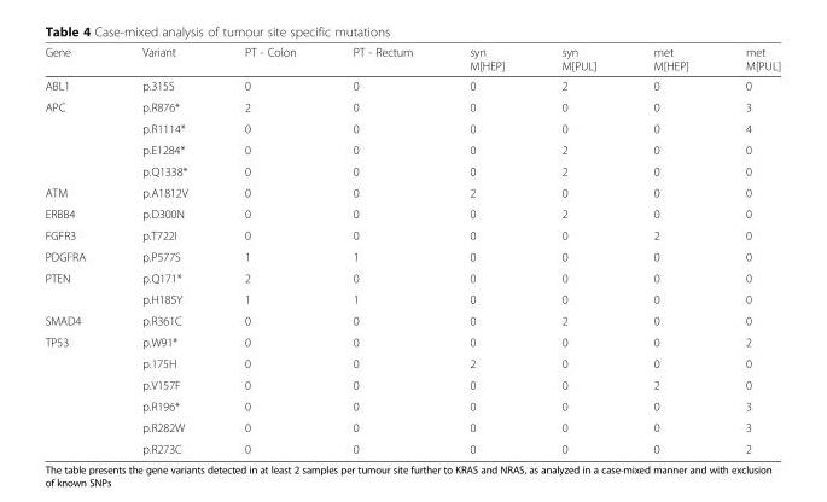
<table><thead><tr><td>Gene</td><td>Variant</td><td>PT - Colon</td><td>PT - Rectum</td><td>syn M[HEP]</td><td>syn M[PUL]</td><td>met M[HEP]</td><td>met M[PUL]</td></tr></thead><tbody><tr><td>ABL1</td><td>p.315S</td><td>0</td><td>0</td><td>0</td><td>2</td><td>0</td><td>0</td></tr><tr><td rowspan="4">APC</td><td>p.R876*</td><td>2</td><td>0</td><td>0</td><td>0</td><td>0</td><td>3</td></tr><tr><td>p.R1114*</td><td>0</td><td>0</td><td>0</td><td>0</td><td>0</td><td>4</td></tr><tr><td>p.E1284*</td><td>0</td><td>0</td><td>0</td><td>2</td><td>0</td><td>0</td></tr><tr><td>p.Q1338*</td><td>0</td><td>0</td><td>0</td><td>2</td><td>0</td><td>0</td></tr><tr><td>ATM</td><td>p.A1812V</td><td>0</td><td>0</td><td>2</td><td>0</td><td>0</td><td>0</td></tr><tr><td>ERBB4</td><td>p.D300N</td><td>0</td><td>0</td><td>0</td><td>2</td><td>0</td><td>0</td></tr><tr><td>FGFR3</td><td>p.T722I</td><td>0</td><td>0</td><td>0</td><td>0</td><td>2</td><td>0</td></tr><tr><td>PDGFRA</td><td>p.P577S</td><td>1</td><td>1</td><td>0</td><td>0</td><td>0</td><td>0</td></tr><tr><td rowspan="2">PTEN</td><td>p.Q171*</td><td>2</td><td>0</td><td>0</td><td>0</td><td>0</td><td>0</td></tr><tr><td>p.H185Y</td><td>1</td><td>1</td><td>0</td><td>0</td><td>0</td><td>0</td></tr><tr><td>SMAD4</td><td>p.R361C</td><td>0</td><td>0</td><td>0</td><td>2</td><td>0</td><td>0</td></tr><tr><td rowspan="6">TP53</td><td>p.W91*</td><td>0</td><td>0</td><td>0</td><td>0</td><td>0</td><td>2</td></tr><tr><td>p.175H</td><td>0</td><td>0</td><td>2</td><td>0</td><td>0</td><td>0</td></tr><tr><td>p.V157F</td><td>0</td><td>0</td><td>0</td><td>0</td><td>2</td><td>0</td></tr><tr><td>p.R196*</td><td>0</td><td>0</td><td>0</td><td>0</td><td>0</td><td>3</td></tr><tr><td>p.R282W</td><td>0</td><td>0</td><td>0</td><td>0</td><td>0</td><td>3</td></tr><tr><td>p.R273C</td><td>0</td><td>0</td><td>0</td><td>0</td><td>0</td><td>2</td></tr></tbody></table>